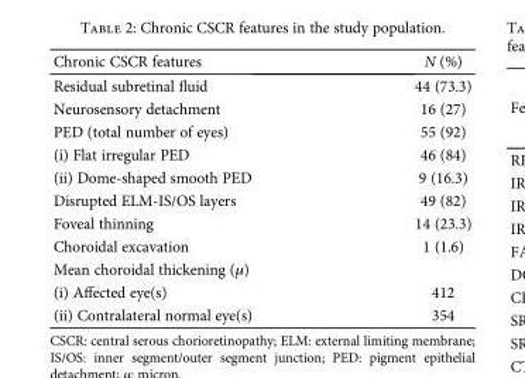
<table><thead><tr><td>Chronic CSCR features</td><td>N (%)</td></tr></thead><tbody><tr><td>Residual subretinal fluid</td><td>44 (73.3)</td></tr><tr><td>Neurosensory detachment</td><td>16 (27)</td></tr><tr><td>PED (total number of eyes)</td><td>55 (92)</td></tr><tr><td>(i) Flat irregular PED</td><td>46 (84)</td></tr><tr><td>(ii) Dome-shaped smooth PED</td><td>9 (16.3)</td></tr><tr><td>Disrupted ELM-IS/OS layers</td><td>49 (82)</td></tr><tr><td>Foveal thinning</td><td>14 (23.3)</td></tr><tr><td>Choroidal excavation</td><td>1 (1.6)</td></tr><tr><td colspan="2">Mean choroidal thickening (μ)</td></tr><tr><td>(i) Affected eye(s)</td><td>412</td></tr><tr><td>(ii) Contralateral normal eye(s)</td><td>354</td></tr></tbody></table>